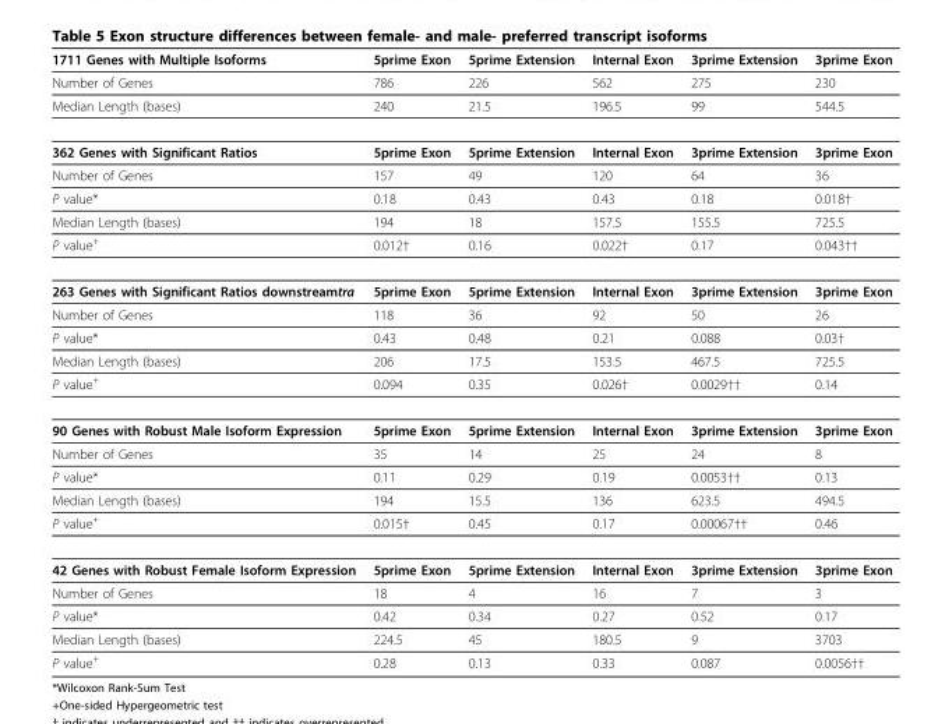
<table><thead><tr><td>1711 Genes with Multiple Isoforms</td><td>5prime Exon</td><td>5prime Extension</td><td>Internal Exon</td><td>3prime Extension</td><td>3prime Exon</td></tr></thead><tbody><tr><td>Number of Genes</td><td>786</td><td>226</td><td>562</td><td>275</td><td>230</td></tr><tr><td>Median Length (bases)</td><td>240</td><td>21.5</td><td>196.5</td><td>99</td><td>544.5</td></tr><tr><td>362 Genes with Significant Ratios</td><td>5prime Exon</td><td>5prime Extension</td><td>Internal Exon</td><td>3prime Extension</td><td>3prime Exon</td></tr><tr><td>Number of Genes</td><td>157</td><td>49</td><td>120</td><td>64</td><td>36</td></tr><tr><td>P value*</td><td>0.18</td><td>0.43</td><td>0.43</td><td>0.18</td><td>0.018†</td></tr><tr><td>Median Length (bases)</td><td>194</td><td>18</td><td>157.5</td><td>155.5</td><td>725.5</td></tr><tr><td>P value+</td><td>0.012†</td><td>0.16</td><td>0.022†</td><td>0.17</td><td>0.043††</td></tr><tr><td>263 Genes with Significant Ratios downstreamtra</td><td>5prime Exon</td><td>5prime Extension</td><td>Internal Exon</td><td>3prime Extension</td><td>3prime Exon</td></tr><tr><td>Number of Genes</td><td>118</td><td>36</td><td>92</td><td>50</td><td>26</td></tr><tr><td>P value*</td><td>0.43</td><td>0.48</td><td>0.21</td><td>0.088</td><td>0.03†</td></tr><tr><td>Median Length (bases)</td><td>206</td><td>17.5</td><td>153.5</td><td>467.5</td><td>725.5</td></tr><tr><td>P value+</td><td>0.094</td><td>0.35</td><td>0.026†</td><td>0.0029††</td><td>0.14</td></tr><tr><td>90 Genes with Robust Male Isoform Expression</td><td>5prime Exon</td><td>5prime Extension</td><td>Internal Exon</td><td>3prime Extension</td><td>3prime Exon</td></tr><tr><td>Number of Genes</td><td>35</td><td>14</td><td>25</td><td>24</td><td>8</td></tr><tr><td>P value*</td><td>0.11</td><td>0.29</td><td>0.19</td><td>0.0053††</td><td>0.13</td></tr><tr><td>Median Length (bases)</td><td>194</td><td>15.5</td><td>136</td><td>623.5</td><td>494.5</td></tr><tr><td>P value+</td><td>0.015†</td><td>0.45</td><td>0.17</td><td>0.00067††</td><td>0.46</td></tr><tr><td>42 Genes with Robust Female Isoform Expression</td><td>5prime Exon</td><td>5prime Extension</td><td>Internal Exon</td><td>3prime Extension</td><td>3prime Exon</td></tr><tr><td>Number of Genes</td><td>18</td><td>4</td><td>16</td><td>7</td><td>3</td></tr><tr><td>P value*</td><td>0.42</td><td>0.34</td><td>0.27</td><td>0.52</td><td>0.17</td></tr><tr><td>Median Length (bases)</td><td>224.5</td><td>45</td><td>180.5</td><td>9</td><td>3703</td></tr><tr><td>P value+</td><td>0.28</td><td>0.13</td><td>0.33</td><td>0.087</td><td>0.0056††</td></tr></tbody></table>